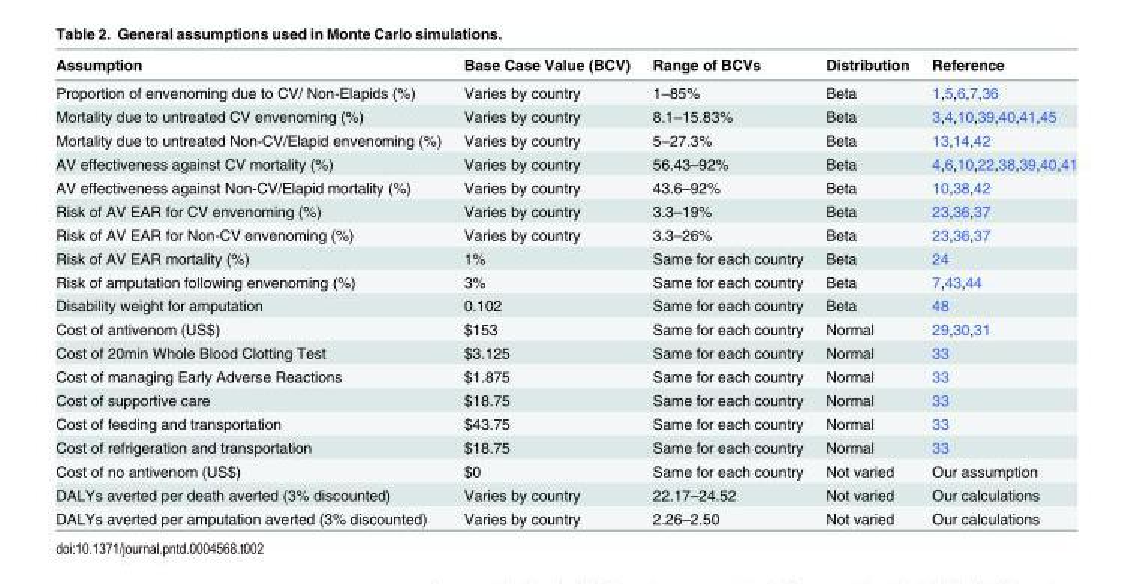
<table><thead><tr><td>Assumption</td><td>Base Case Value (BCV)</td><td>Range of BCVs</td><td>Distribution</td><td>Reference</td></tr></thead><tbody><tr><td>Proportion of envenoming due to CV/ Non-Elapids (%)</td><td>Varies by country</td><td>1–85%</td><td>Beta</td><td>1,5,6,7,36</td></tr><tr><td>Mortality due to untreated CV envenoming (%)</td><td>Varies by country</td><td>8.1–15.83%</td><td>Beta</td><td>3,4,10,39,40,41,45</td></tr><tr><td>Mortality due to untreated Non-CV/Elapid envenoming (%)</td><td>Varies by country</td><td>5–27.3%</td><td>Beta</td><td>13,14,42</td></tr><tr><td>AV effectiveness against CV mortality (%)</td><td>Varies by country</td><td>56.43–92%</td><td>Beta</td><td>4,6,10,22,38,39,40,41</td></tr><tr><td>AV effectiveness against Non-CV/Elapid mortality (%)</td><td>Varies by country</td><td>43.6–92%</td><td>Beta</td><td>10,38,42</td></tr><tr><td>Risk of AV EAR for CV envenoming (%)</td><td>Varies by country</td><td>3.3–19%</td><td>Beta</td><td>23,36,37</td></tr><tr><td>Risk of AV EAR for Non-CV envenoming (%)</td><td>Varies by country</td><td>3.3–26%</td><td>Beta</td><td>23,36,37</td></tr><tr><td>Risk of AV EAR mortality (%)</td><td>1%</td><td>Same for each country</td><td>Beta</td><td>24</td></tr><tr><td>Risk of amputation following envenoming (%)</td><td>3%</td><td>Same for each country</td><td>Beta</td><td>7,43,44</td></tr><tr><td>Disability weight for amputation</td><td>0.102</td><td>Same for each country</td><td>Beta</td><td>48</td></tr><tr><td>Cost of antivenom (US$)</td><td>$153</td><td>Same for each country</td><td>Normal</td><td>29,30,31</td></tr><tr><td>Cost of 20min Whole Blood Clotting Test</td><td>$3.125</td><td>Same for each country</td><td>Normal</td><td>33</td></tr><tr><td>Cost of managing Early Adverse Reactions</td><td>$1.875</td><td>Same for each country</td><td>Normal</td><td>33</td></tr><tr><td>Cost of supportive care</td><td>$18.75</td><td>Same for each country</td><td>Normal</td><td>33</td></tr><tr><td>Cost of feeding and transportation</td><td>$43.75</td><td>Same for each country</td><td>Normal</td><td>33</td></tr><tr><td>Cost of refrigeration and transportation</td><td>$18.75</td><td>Same for each country</td><td>Normal</td><td>33</td></tr><tr><td>Cost of no antivenom (US$)</td><td>$0</td><td>Same for each country</td><td>Not varied</td><td>Our assumption</td></tr><tr><td>DALYs averted per death averted (3% discounted)</td><td>Varies by country</td><td>22.17–24.52</td><td>Not varied</td><td>Our calculations</td></tr><tr><td>DALYs averted per amputation averted (3% discounted)</td><td>Varies by country</td><td>2.26–2.50</td><td>Not varied</td><td>Our calculations</td></tr></tbody></table>